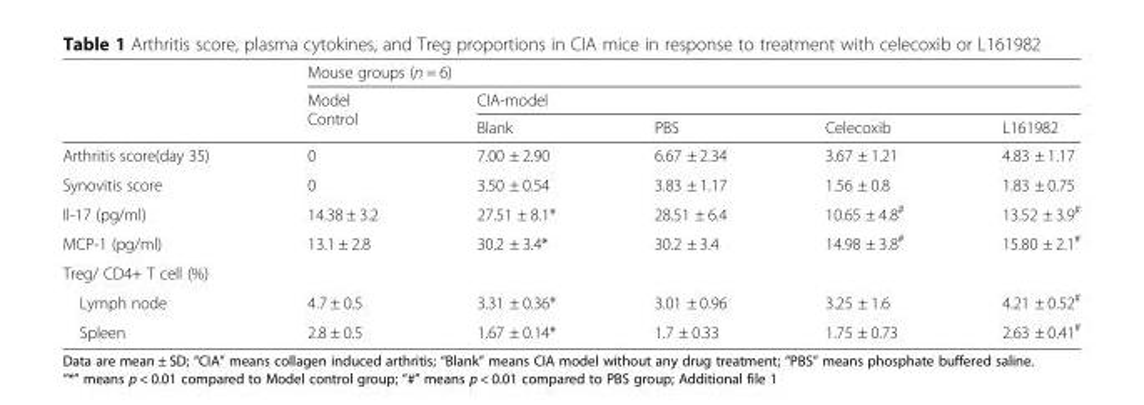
<table><thead><tr><td rowspan="3"></td><td colspan="5">Mouse groups (n = 6)</td></tr><tr><td rowspan="2">Model Control</td><td colspan="4">CIA-model</td></tr><tr><td>Blank</td><td>PBS</td><td>Celecoxib</td><td>L161982</td></tr></thead><tbody><tr><td>Arthritis score(day 35)</td><td>0</td><td>7.00 ± 2.90</td><td>6.67 ± 2.34</td><td>3.67 ± 1.21</td><td>4.83 ± 1.17</td></tr><tr><td>Synovitis score</td><td>0</td><td>3.50 ± 0.54</td><td>3.83 ± 1.17</td><td>1.56 ± 0.8</td><td>1.83 ± 0.75</td></tr><tr><td>Il-17 (pg/ml)</td><td>14.38 ± 3.2</td><td>27.51 ± 8.1*</td><td>28.51 ± 6.4</td><td>10.65 ± 4.8<sup>#</sup></td><td>13.52 ± 3.9<sup>#</sup></td></tr><tr><td>MCP-1 (pg/ml)</td><td>13.1 ± 2.8</td><td>30.2 ± 3.4*</td><td>30.2 ± 3.4</td><td>14.98 ± 3.8<sup>#</sup></td><td>15.80 ± 2.1<sup>#</sup></td></tr><tr><td colspan="6">Treg/ CD4+ T cell (%)</td></tr><tr><td>Lymph node</td><td>4.7 ± 0.5</td><td>3.31 ± 0.36*</td><td>3.01 ± 0.96</td><td>3.25 ± 1.6</td><td>4.21 ± 0.52<sup>#</sup></td></tr><tr><td>Spleen</td><td>2.8 ± 0.5</td><td>1.67 ± 0.14*</td><td>1.7 ± 0.33</td><td>1.75 ± 0.73</td><td>2.63 ± 0.41<sup>#</sup></td></tr></tbody></table>